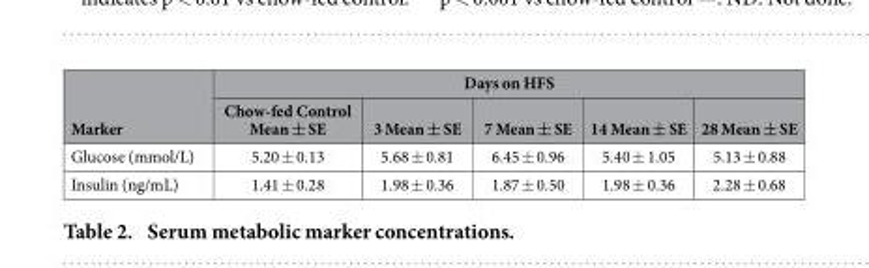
<table><thead><tr><td rowspan="2">Marker</td><td colspan="5">Days on HFS</td></tr><tr><td>Chow-fed Control Mean ± SE</td><td>3 Mean ± SE</td><td>7 Mean ± SE</td><td>14 Mean ± SE</td><td>28 Mean ± SE</td></tr></thead><tbody><tr><td>Glucose (mmol/L)</td><td>5.20 ± 0.13</td><td>5.68 ± 0.81</td><td>6.45 ± 0.96</td><td>5.40 ± 1.05</td><td>5.13 ± 0.88</td></tr><tr><td>Insulin (ng/mL)</td><td>1.41 ± 0.28</td><td>1.98 ± 0.36</td><td>1.87 ± 0.50</td><td>1.98 ± 0.36</td><td>2.28 ± 0.68</td></tr></tbody></table>